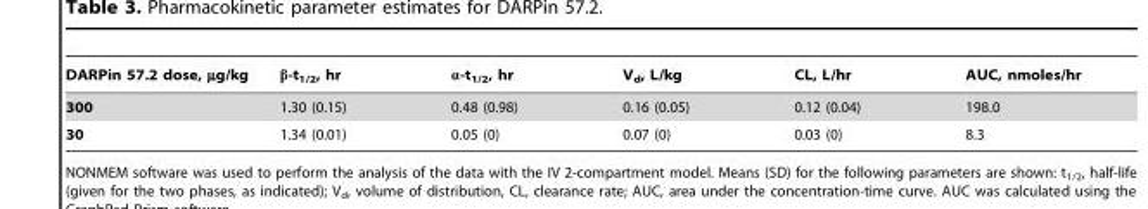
<table><thead><tr><td>DARPin 57.2 dose, µg/kg</td><td>β-t<sub>1/2</sub>, hr</td><td>α-t<sub>1/2</sub>, hr</td><td>V<sub>d</sub>, L/kg</td><td>CL, L/hr</td><td>AUC, nmoles/hr</td></tr></thead><tbody><tr><td>300</td><td>1.30 (0.15)</td><td>0.48 (0.98)</td><td>0.16 (0.05)</td><td>0.12 (0.04)</td><td>198.0</td></tr><tr><td>30</td><td>1.34 (0.01)</td><td>0.05 (0)</td><td>0.07 (0)</td><td>0.03 (0)</td><td>8.3</td></tr></tbody></table>